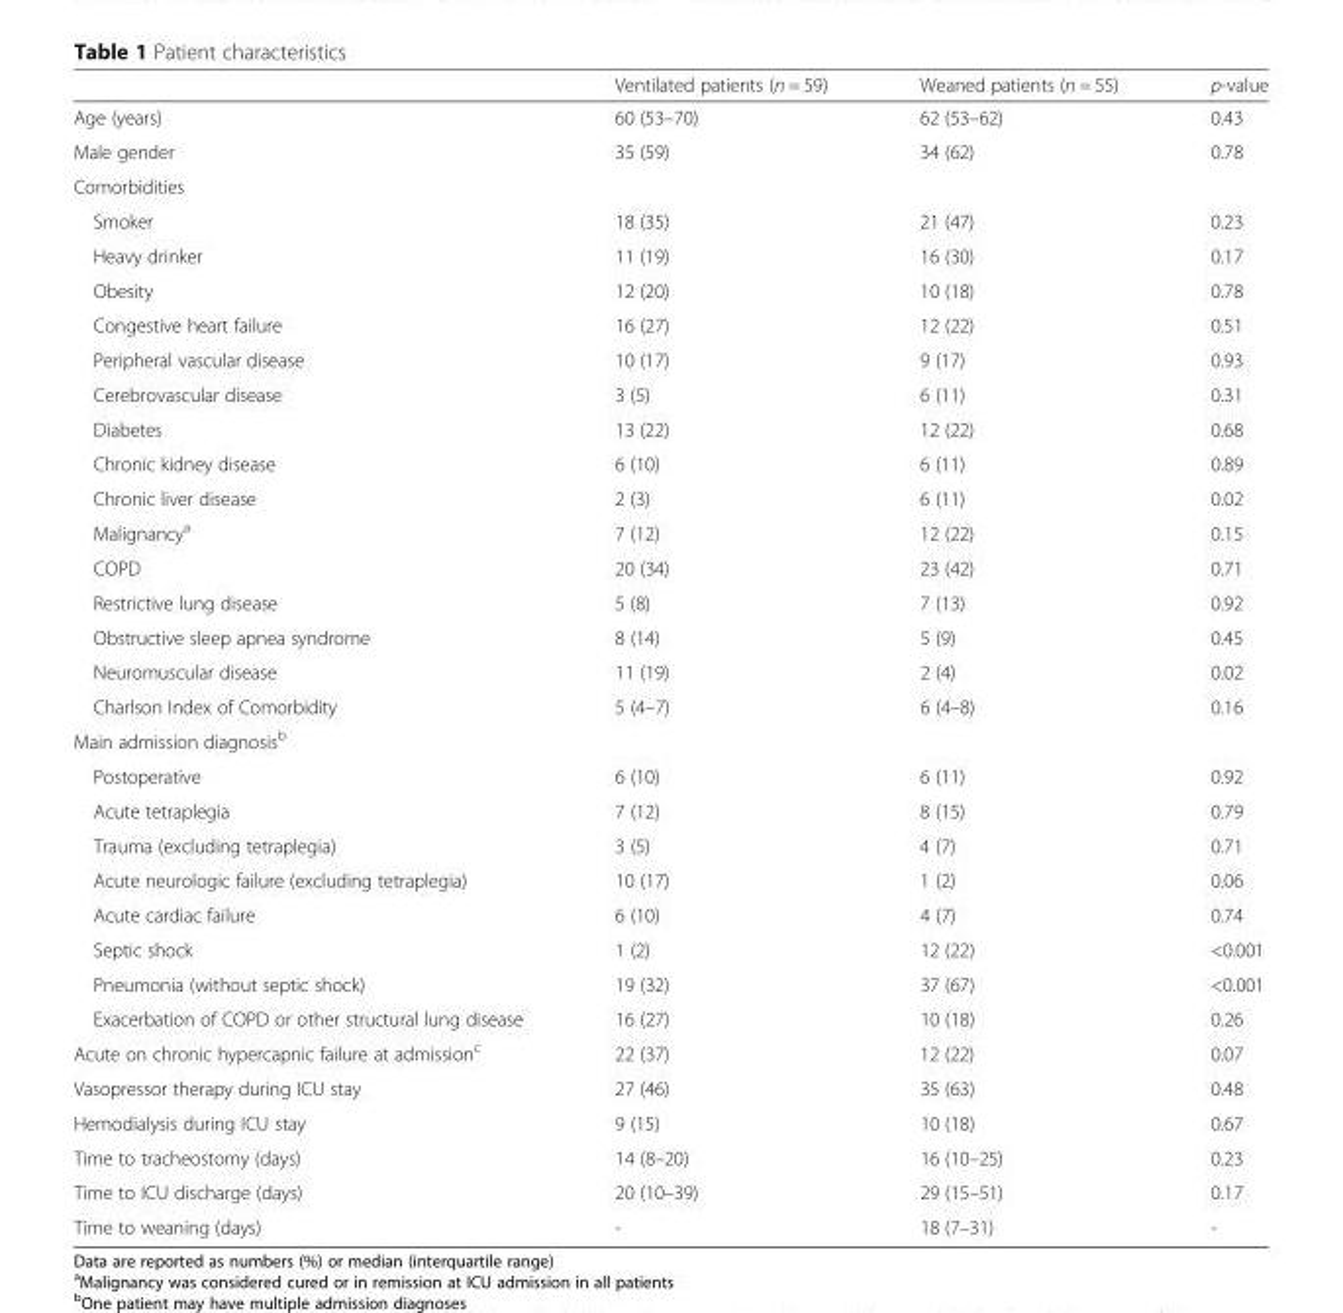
<table><thead><tr><td></td><td>Ventilated patients (n = 59)</td><td>Weaned patients (n = 55)</td><td>p-value</td></tr></thead><tbody><tr><td>Age (years)</td><td>60 (53–70)</td><td>62 (53–62)</td><td>0.43</td></tr><tr><td>Male gender</td><td>35 (59)</td><td>34 (62)</td><td>0.78</td></tr><tr><td colspan="4">Comorbidities</td></tr><tr><td>Smoker</td><td>18 (35)</td><td>21 (47)</td><td>0.23</td></tr><tr><td>Heavy drinker</td><td>11 (19)</td><td>16 (30)</td><td>0.17</td></tr><tr><td>Obesity</td><td>12 (20)</td><td>10 (18)</td><td>0.78</td></tr><tr><td>Congestive heart failure</td><td>16 (27)</td><td>12 (22)</td><td>0.51</td></tr><tr><td>Peripheral vascular disease</td><td>10 (17)</td><td>9 (17)</td><td>0.93</td></tr><tr><td>Cerebrovascular disease</td><td>3 (5)</td><td>6 (11)</td><td>0.31</td></tr><tr><td>Diabetes</td><td>13 (22)</td><td>12 (22)</td><td>0.68</td></tr><tr><td>Chronic kidney disease</td><td>6 (10)</td><td>6 (11)</td><td>0.89</td></tr><tr><td>Chronic liver disease</td><td>2 (3)</td><td>6 (11)</td><td>0.02</td></tr><tr><td>Malignancy<sup>a</sup></td><td>7 (12)</td><td>12 (22)</td><td>0.15</td></tr><tr><td>COPD</td><td>20 (34)</td><td>23 (42)</td><td>0.71</td></tr><tr><td>Restrictive lung disease</td><td>5 (8)</td><td>7 (13)</td><td>0.92</td></tr><tr><td>Obstructive sleep apnea syndrome</td><td>8 (14)</td><td>5 (9)</td><td>0.45</td></tr><tr><td>Neuromuscular disease</td><td>11 (19)</td><td>2 (4)</td><td>0.02</td></tr><tr><td>Charlson Index of Comorbidity</td><td>5 (4–7)</td><td>6 (4–8)</td><td>0.16</td></tr><tr><td colspan="4">Main admission diagnosis<sup>b</sup></td></tr><tr><td>Postoperative</td><td>6 (10)</td><td>6 (11)</td><td>0.92</td></tr><tr><td>Acute tetraplegia</td><td>7 (12)</td><td>8 (15)</td><td>0.79</td></tr><tr><td>Trauma (excluding tetraplegia)</td><td>3 (5)</td><td>4 (7)</td><td>0.71</td></tr><tr><td>Acute neurologic failure (excluding tetraplegia)</td><td>10 (17)</td><td>1 (2)</td><td>0.06</td></tr><tr><td>Acute cardiac failure</td><td>6 (10)</td><td>4 (7)</td><td>0.74</td></tr><tr><td>Septic shock</td><td>1 (2)</td><td>12 (22)</td><td>&lt;0.001</td></tr><tr><td>Pneumonia (without septic shock)</td><td>19 (32)</td><td>37 (67)</td><td>&lt;0.001</td></tr><tr><td>Exacerbation of COPD or other structural lung disease</td><td>16 (27)</td><td>10 (18)</td><td>0.26</td></tr><tr><td>Acute on chronic hypercapnic failure at admission<sup>c</sup></td><td>22 (37)</td><td>12 (22)</td><td>0.07</td></tr><tr><td>Vasopressor therapy during ICU stay</td><td>27 (46)</td><td>35 (63)</td><td>0.48</td></tr><tr><td>Hemodialysis during ICU stay</td><td>9 (15)</td><td>10 (18)</td><td>0.67</td></tr><tr><td>Time to tracheostomy (days)</td><td>14 (8–20)</td><td>16 (10–25)</td><td>0.23</td></tr><tr><td>Time to ICU discharge (days)</td><td>20 (10–39)</td><td>29 (15–51)</td><td>0.17</td></tr><tr><td>Time to weaning (days)</td><td>-</td><td>18 (7–31)</td><td>-</td></tr></tbody></table>